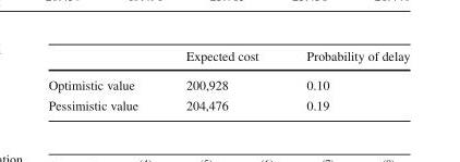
<table><thead><tr><td></td><td>Expected cost</td><td>Probability of delay</td></tr></thead><tbody><tr><td>Optimistic value</td><td>200,928</td><td>0.10</td></tr><tr><td>Pessimistic value</td><td>204,476</td><td>0.19</td></tr></tbody></table>